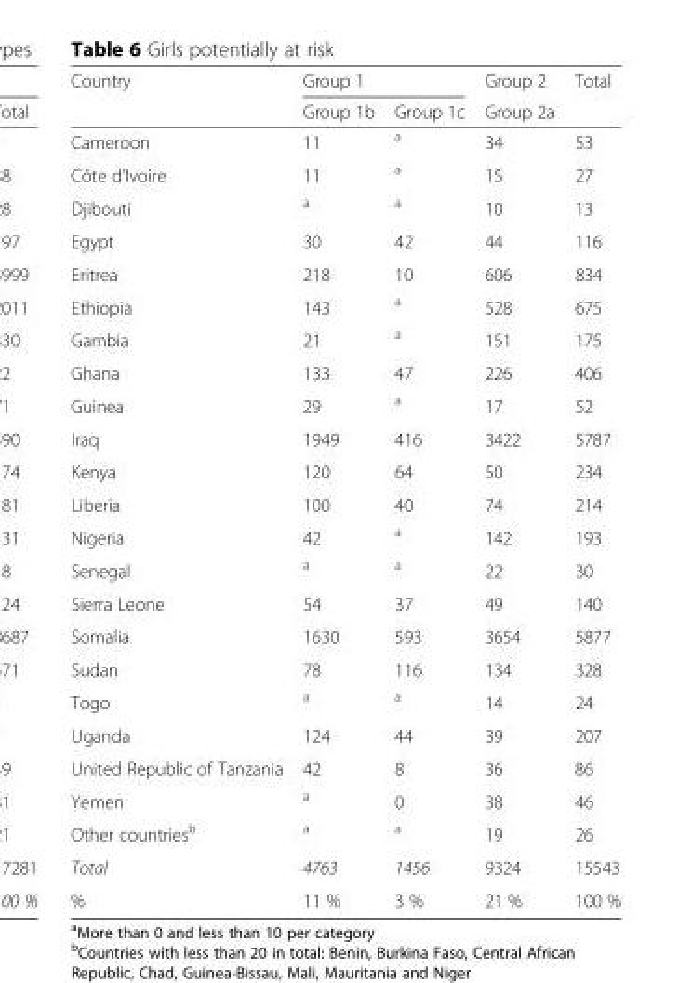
<table><thead><tr><td rowspan="2">Country</td><td colspan="2">Group 1</td><td rowspan="2">Group 2 Group 2a</td><td rowspan="2">Total</td></tr><tr><td>Group 1b</td><td>Group 1c</td></tr></thead><tbody><tr><td>Cameroon</td><td>11</td><td><sup>a</sup></td><td>34</td><td>53</td></tr><tr><td>Côte d’Ivoire</td><td>11</td><td><sup>a</sup></td><td>15</td><td>27</td></tr><tr><td>Djibouti</td><td><sup>a</sup></td><td><sup>a</sup></td><td>10</td><td>13</td></tr><tr><td>Egypt</td><td>30</td><td>42</td><td>44</td><td>116</td></tr><tr><td>Eritrea</td><td>218</td><td>10</td><td>606</td><td>834</td></tr><tr><td>Ethiopia</td><td>143</td><td><sup>a</sup></td><td>528</td><td>675</td></tr><tr><td>Gambia</td><td>21</td><td><sup>a</sup></td><td>151</td><td>175</td></tr><tr><td>Ghana</td><td>133</td><td>47</td><td>226</td><td>406</td></tr><tr><td>Guinea</td><td>29</td><td><sup>a</sup></td><td>17</td><td>52</td></tr><tr><td>Iraq</td><td>1949</td><td>416</td><td>3422</td><td>5787</td></tr><tr><td>Kenya</td><td>120</td><td>64</td><td>50</td><td>234</td></tr><tr><td>Liberia</td><td>100</td><td>40</td><td>74</td><td>214</td></tr><tr><td>Nigeria</td><td>42</td><td><sup>a</sup></td><td>142</td><td>193</td></tr><tr><td>Senegal</td><td><sup>a</sup></td><td><sup>a</sup></td><td>22</td><td>30</td></tr><tr><td>Sierra Leone</td><td>54</td><td>37</td><td>49</td><td>140</td></tr><tr><td>Somalia</td><td>1630</td><td>593</td><td>3654</td><td>5877</td></tr><tr><td>Sudan</td><td>78</td><td>116</td><td>134</td><td>328</td></tr><tr><td>Togo</td><td><sup>a</sup></td><td><sup>a</sup></td><td>14</td><td>24</td></tr><tr><td>Uganda</td><td>124</td><td>44</td><td>39</td><td>207</td></tr><tr><td>United Republic of Tanzania</td><td>42</td><td>8</td><td>36</td><td>86</td></tr><tr><td>Yemen</td><td><sup>a</sup></td><td>0</td><td>38</td><td>46</td></tr><tr><td>Other countries<sup>b</sup></td><td><sup>a</sup></td><td><sup>a</sup></td><td>19</td><td>26</td></tr><tr><td>Total</td><td>4763</td><td>1456</td><td>9324</td><td>15543</td></tr><tr><td>%</td><td>11 %</td><td>3 %</td><td>21 %</td><td>100 %</td></tr></tbody></table>